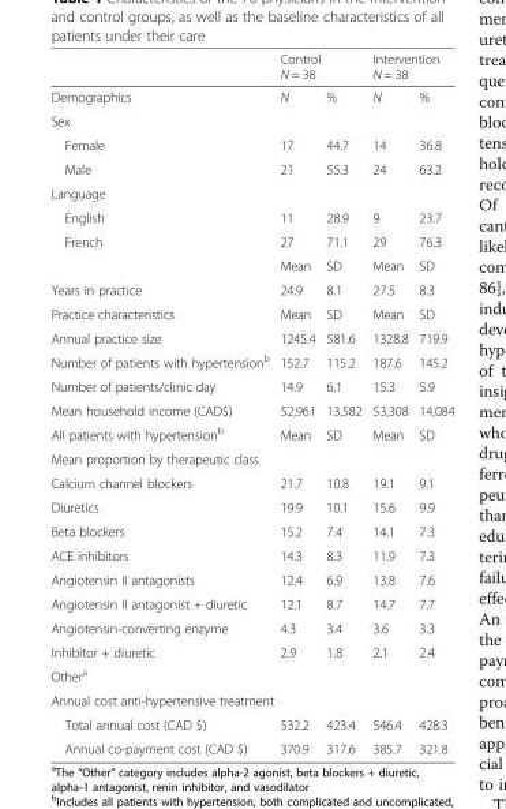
<table><thead><tr><td rowspan="2">Demographics</td><td colspan="2">Control N = 38</td><td colspan="2">Intervention N = 38</td></tr><tr><td>N</td><td>%</td><td>N</td><td>%</td></tr></thead><tbody><tr><td colspan="5">Sex</td></tr><tr><td>Female</td><td>17</td><td>44.7</td><td>14</td><td>36.8</td></tr><tr><td>Male</td><td>21</td><td>55.3</td><td>24</td><td>63.2</td></tr><tr><td colspan="5">Language</td></tr><tr><td>English</td><td>11</td><td>28.9</td><td>9</td><td>23.7</td></tr><tr><td rowspan="2">French</td><td>27</td><td>71.1</td><td>29</td><td>76.3</td></tr><tr><td>Mean</td><td>SD</td><td>Mean</td><td>SD</td></tr><tr><td>Years in practice</td><td>24.9</td><td>8.1</td><td>27.5</td><td>8.3</td></tr><tr><td>Practice characteristics</td><td>Mean</td><td>SD</td><td>Mean</td><td>SD</td></tr><tr><td>Annual practice size</td><td>1245.4</td><td>581.6</td><td>1328.8</td><td>719.9</td></tr><tr><td>Number of patients with hypertension<sup>b</sup></td><td>152.7</td><td>115.2</td><td>187.6</td><td>145.2</td></tr><tr><td>Number of patients/clinic day</td><td>14.9</td><td>6.1</td><td>15.3</td><td>5.9</td></tr><tr><td>Mean household income (CAD$)</td><td>52,961</td><td>13,582</td><td>53,308</td><td>14,084</td></tr><tr><td>All patients with hypertension<sup>b</sup></td><td>Mean</td><td>SD</td><td>Mean</td><td>SD</td></tr><tr><td colspan="5">Mean proportion by therapeutic class</td></tr><tr><td>Calcium channel blockers</td><td>21.7</td><td>10.8</td><td>19.1</td><td>9.1</td></tr><tr><td>Diuretics</td><td>19.9</td><td>10.1</td><td>15.6</td><td>9.9</td></tr><tr><td>Beta blockers</td><td>15.2</td><td>7.4</td><td>14.1</td><td>7.3</td></tr><tr><td>ACE inhibitors</td><td>14.3</td><td>8.3</td><td>11.9</td><td>7.3</td></tr><tr><td>Angiotensin II antagonists</td><td>12.4</td><td>6.9</td><td>13.8</td><td>7.6</td></tr><tr><td>Angiotensin II antagonist + diuretic</td><td>12.1</td><td>8.7</td><td>14.7</td><td>7.7</td></tr><tr><td>Angiotensin-converting enzyme</td><td>4.3</td><td>3.4</td><td>3.6</td><td>3.3</td></tr><tr><td>Inhibitor + diuretic</td><td>2.9</td><td>1.8</td><td>2.1</td><td>2.4</td></tr><tr><td colspan="5">Other<sup>a</sup></td></tr><tr><td colspan="5">Annual cost anti-hypertensive treatment</td></tr><tr><td>Total annual cost (CAD $)</td><td>532.2</td><td>423.4</td><td>546.4</td><td>428.3</td></tr><tr><td>Annual co-payment cost (CAD $)</td><td>370.9</td><td>317.6</td><td>385.7</td><td>321.8</td></tr></tbody></table>